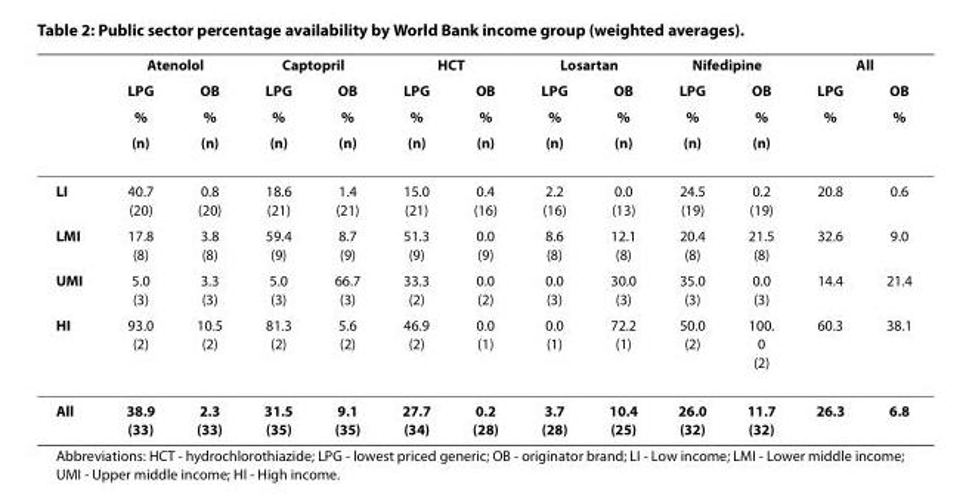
<table><thead><tr><td rowspan="4"></td><td colspan="2">Atenolol</td><td colspan="2">Captopril</td><td colspan="2">HCT</td><td colspan="2">Losartan</td><td colspan="2">Nifedipine</td><td colspan="2">All</td></tr><tr><td rowspan="3">LPG % (n)</td><td rowspan="3">OB % (n)</td><td rowspan="3">LPG % (n)</td><td rowspan="3">OB % (n)</td><td rowspan="3">LPG % (n)</td><td rowspan="3">OB % (n)</td><td rowspan="3">LPG % (n)</td><td rowspan="3">OB % (n)</td><td rowspan="3">LPG % (n)</td><td rowspan="3">OB % (n)</td><td rowspan="3">LPG %</td><td rowspan="3">OB %</td></tr><tr></tr><tr></tr></thead><tbody><tr><td>LI</td><td>40.7 (20)</td><td>0.8 (20)</td><td>18.6 (21)</td><td>1.4 (21)</td><td>15.0 (21)</td><td>0.4 (16)</td><td>2.2 (16)</td><td>0.0 (13)</td><td>24.5 (19)</td><td>0.2 (19)</td><td>20.8</td><td>0.6</td></tr><tr><td>LMI</td><td>17.8 (8)</td><td>3.8 (8)</td><td>59.4 (9)</td><td>8.7 (9)</td><td>51.3 (9)</td><td>0.0 (9)</td><td>8.6 (8)</td><td>12.1 (8)</td><td>20.4 (8)</td><td>21.5 (8)</td><td>32.6</td><td>9.0</td></tr><tr><td>UMI</td><td>5.0 (3)</td><td>3.3 (3)</td><td>5.0 (3)</td><td>66.7 (3)</td><td>33.3 (2)</td><td>0.0 (2)</td><td>0.0 (3)</td><td>30.0 (3)</td><td>35.0 (3)</td><td>0.0 (3)</td><td>14.4</td><td>21.4</td></tr><tr><td>HI</td><td>93.0 (2)</td><td>10.5 (2)</td><td>81.3 (2)</td><td>5.6 (2)</td><td>46.9 (2)</td><td>0.0 (1)</td><td>0.0 (1)</td><td>72.2 (1)</td><td>50.0 (2)</td><td>100. 0 (2)</td><td>60.3</td><td>38.1</td></tr><tr><td>All</td><td>38.9 (33)</td><td>2.3 (33)</td><td>31.5 (35)</td><td>9.1 (35)</td><td>27.7 (34)</td><td>0.2 (28)</td><td>3.7 (28)</td><td>10.4 (25)</td><td>26.0 (32)</td><td>11.7 (32)</td><td>26.3</td><td>6.8</td></tr></tbody></table>